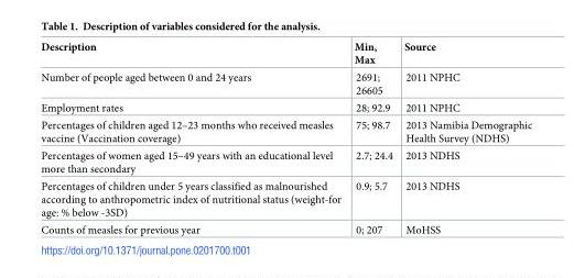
<table><thead><tr><td>Description</td><td>Min, Max</td><td>Source</td></tr></thead><tbody><tr><td>Number of people aged between 0 and 24 years</td><td>2691; 26605</td><td>2011 NPHC</td></tr><tr><td>Employment rates</td><td>28; 92.9</td><td>2011 NPHC</td></tr><tr><td>Percentages of children aged 12–23 months who received measles vaccine (Vaccination coverage)</td><td>75; 98.7</td><td>2013 Namibia Demographic Health Survey (NDHS)</td></tr><tr><td>Percentages of women aged 15–49 years with an educational level more than secondary</td><td>2.7; 24.4</td><td>2013 NDHS</td></tr><tr><td>Percentages of children under 5 years classified as malnourished according to anthropometric index of nutritional status (weight-for age: % below -3SD)</td><td>0.9; 5.7</td><td>2013 NDHS</td></tr><tr><td>Counts of measles for previous year</td><td>0; 207</td><td>MoHSS</td></tr></tbody></table>